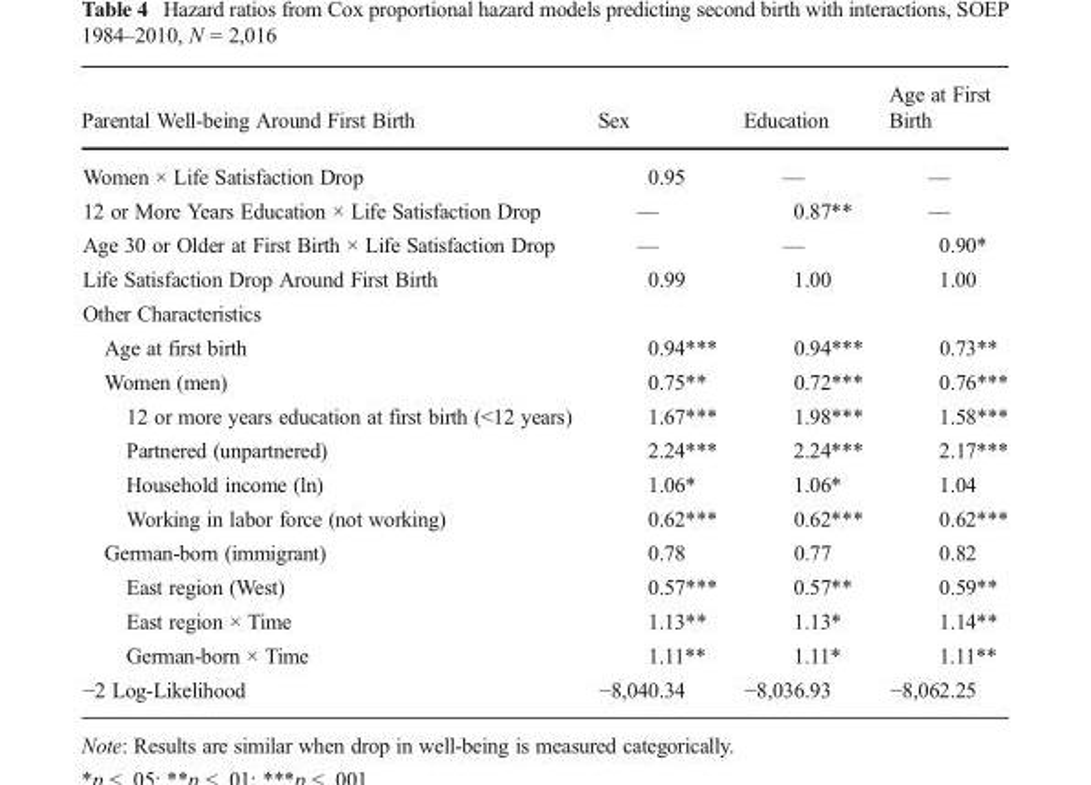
<table><thead><tr><td>Parental Well-being Around First Birth</td><td>Sex</td><td>Education</td><td>Age at First Birth</td></tr></thead><tbody><tr><td>Women × Life Satisfaction Drop</td><td>0.95</td><td>––</td><td>––</td></tr><tr><td>12 or More Years Education × Life Satisfaction Drop</td><td>––</td><td>0.87**</td><td>––</td></tr><tr><td>Age 30 or Older at First Birth × Life Satisfaction Drop</td><td>––</td><td>––</td><td>0.90*</td></tr><tr><td>Life Satisfaction Drop Around First Birth</td><td>0.99</td><td>1.00</td><td>1.00</td></tr><tr><td colspan="4">Other Characteristics</td></tr><tr><td>Age at first birth</td><td>0.94***</td><td>0.94***</td><td>0.73**</td></tr><tr><td>Women (men)</td><td>0.75**</td><td>0.72***</td><td>0.76***</td></tr><tr><td>12 or more years education at first birth (&lt;12 years)</td><td>1.67***</td><td>1.98***</td><td>1.58***</td></tr><tr><td>Partnered (unpartnered)</td><td>2.24***</td><td>2.24***</td><td>2.17***</td></tr><tr><td>Household income (ln)</td><td>1.06*</td><td>1.06*</td><td>1.04</td></tr><tr><td>Working in labor force (not working)</td><td>0.62***</td><td>0.62***</td><td>0.62***</td></tr><tr><td>German-born (immigrant)</td><td>0.78</td><td>0.77</td><td>0.82</td></tr><tr><td>East region (West)</td><td>0.57***</td><td>0.57**</td><td>0.59**</td></tr><tr><td>East region × Time</td><td>1.13**</td><td>1.13*</td><td>1.14**</td></tr><tr><td>German-born × Time</td><td>1.11**</td><td>1.11*</td><td>1.11**</td></tr><tr><td>−2 Log-Likelihood</td><td>−8,040.34</td><td>−8,036.93</td><td>−8,062.25</td></tr></tbody></table>